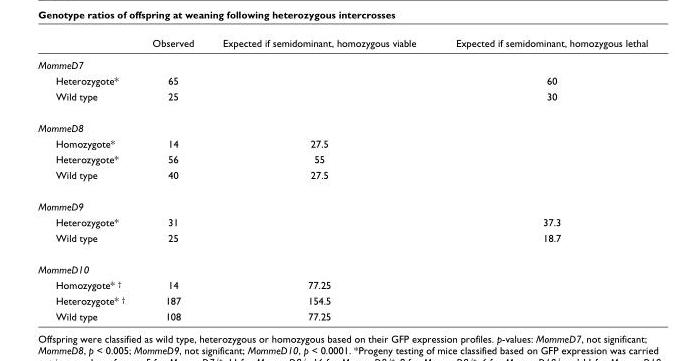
<table><thead><tr><td></td><td>Observed</td><td>Expected if semidominant, homozygous viable</td><td>Expected if semidominant, homozygous lethal</td></tr></thead><tbody><tr><td colspan="4">MommeD7</td></tr><tr><td>Heterozygote*</td><td>65</td><td></td><td>60</td></tr><tr><td>Wild type</td><td>25</td><td></td><td>30</td></tr><tr><td colspan="4">MommeD8</td></tr><tr><td>Homozygote*</td><td>14</td><td>27.5</td><td></td></tr><tr><td>Heterozygote*</td><td>56</td><td>55</td><td></td></tr><tr><td>Wild type</td><td>40</td><td>27.5</td><td></td></tr><tr><td colspan="4">MommeD9</td></tr><tr><td>Heterozygote*</td><td>31</td><td></td><td>37.3</td></tr><tr><td>Wild type</td><td>25</td><td></td><td>18.7</td></tr><tr><td colspan="4">MommeD10</td></tr><tr><td>Homozygote* <sup>†</sup></td><td>14</td><td>77.25</td><td></td></tr><tr><td>Heterozygote* <sup>†</sup></td><td>187</td><td>154.5</td><td></td></tr><tr><td>Wild type</td><td>108</td><td>77.25</td><td></td></tr></tbody></table>